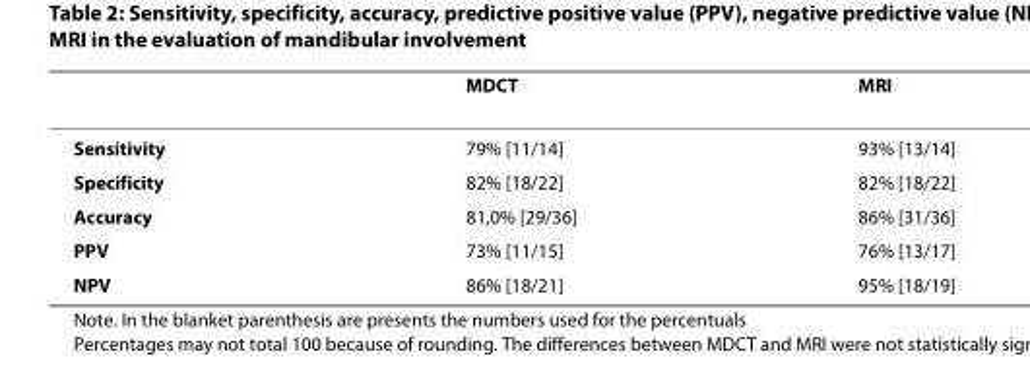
<table><thead><tr><td></td><td>MDCT</td><td>MRI</td></tr></thead><tbody><tr><td>Sensitivity</td><td>79% [11/14]</td><td>93% [13/14]</td></tr><tr><td>Specificity</td><td>82% [18/22]</td><td>82% [18/22]</td></tr><tr><td>Accuracy</td><td>81,0% [29/36]</td><td>86% [31/36]</td></tr><tr><td>PPV</td><td>73% [11/15]</td><td>76% [13/17]</td></tr><tr><td>NPV</td><td>86% [18/21]</td><td>95% [18/19]</td></tr></tbody></table>